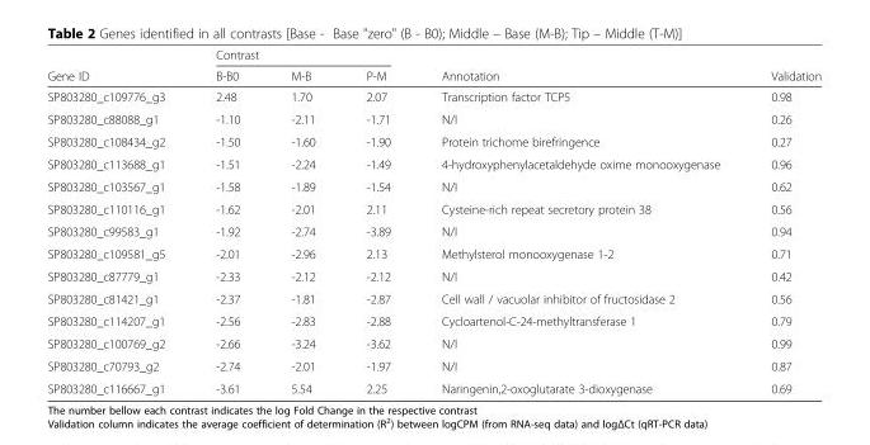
<table><thead><tr><td rowspan="2">Gene ID</td><td colspan="3">Contrast</td><td rowspan="2">Annotation</td><td rowspan="2">Validation</td></tr><tr><td>B-B0</td><td>M-B</td><td>P-M</td></tr></thead><tbody><tr><td>SP803280_c109776_g3</td><td>2.48</td><td>1.70</td><td>2.07</td><td>Transcription factor TCP5</td><td>0.98</td></tr><tr><td>SP803280_c88088_g1</td><td>-1.10</td><td>-2.11</td><td>-1.71</td><td>N/I</td><td>0.26</td></tr><tr><td>SP803280_c108434_g2</td><td>-1.50</td><td>-1.60</td><td>-1.90</td><td>Protein trichome birefringence</td><td>0.27</td></tr><tr><td>SP803280_c113688_g1</td><td>-1.51</td><td>-2.24</td><td>-1.49</td><td>4-hydroxyphenylacetaldehyde oxime monooxygenase</td><td>0.96</td></tr><tr><td>SP803280_c103567_g1</td><td>-1.58</td><td>-1.89</td><td>-1.54</td><td>N/I</td><td>0.62</td></tr><tr><td>SP803280_c110116_g1</td><td>-1.62</td><td>-2.01</td><td>2.11</td><td>Cysteine-rich repeat secretory protein 38</td><td>0.56</td></tr><tr><td>SP803280_c99583_g1</td><td>-1.92</td><td>-2.74</td><td>-3.89</td><td>N/I</td><td>0.94</td></tr><tr><td>SP803280_c109581_g5</td><td>-2.01</td><td>-2.96</td><td>2.13</td><td>Methylsterol monooxygenase 1-2</td><td>0.71</td></tr><tr><td>SP803280_c87779_g1</td><td>-2.33</td><td>-2.12</td><td>-2.12</td><td>N/I</td><td>0.42</td></tr><tr><td>SP803280_c81421_g1</td><td>-2.37</td><td>-1.81</td><td>-2.87</td><td>Cell wall / vacuolar inhibitor of fructosidase 2</td><td>0.56</td></tr><tr><td>SP803280_c114207_g1</td><td>-2.56</td><td>-2.83</td><td>-2.88</td><td>Cycloartenol-C-24-methyltransferase 1</td><td>0.79</td></tr><tr><td>SP803280_c100769_g2</td><td>-2.66</td><td>-3.24</td><td>-3.62</td><td>N/I</td><td>0.99</td></tr><tr><td>SP803280_c70793_g2</td><td>-2.74</td><td>-2.01</td><td>-1.97</td><td>N/I</td><td>0.87</td></tr><tr><td>SP803280_c116667_g1</td><td>-3.61</td><td>5.54</td><td>2.25</td><td>Naringenin,2-oxoglutarate 3-dioxygenase</td><td>0.69</td></tr></tbody></table>